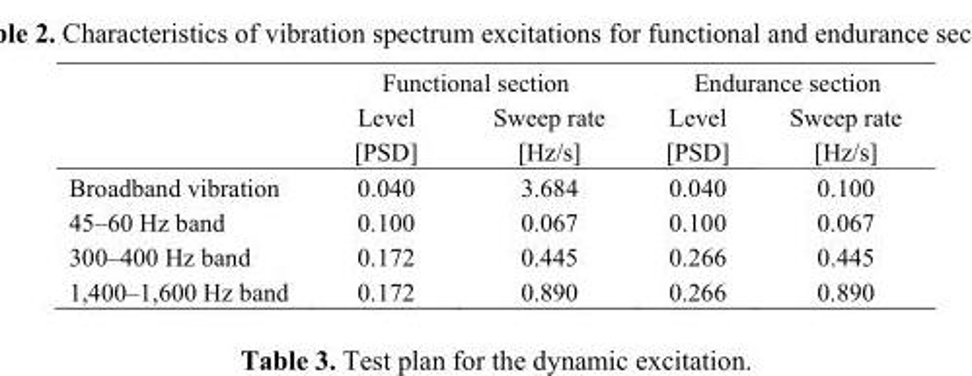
<table><thead><tr><td rowspan="2"></td><td colspan="2">Functional section</td><td colspan="2">Endurance section</td></tr><tr><td>Level [PSD]</td><td>Sweep rate [Hz/s]</td><td>Level [PSD]</td><td>Sweep rate [Hz/s]</td></tr></thead><tbody><tr><td>Broadband vibration</td><td>0.040</td><td>3.684</td><td>0.040</td><td>0.100</td></tr><tr><td>45–60 Hz band</td><td>0.100</td><td>0.067</td><td>0.100</td><td>0.067</td></tr><tr><td>300–400 Hz band</td><td>0.172</td><td>0.445</td><td>0.266</td><td>0.445</td></tr><tr><td>1,400–1,600 Hz band</td><td>0.172</td><td>0.890</td><td>0.266</td><td>0.890</td></tr></tbody></table>